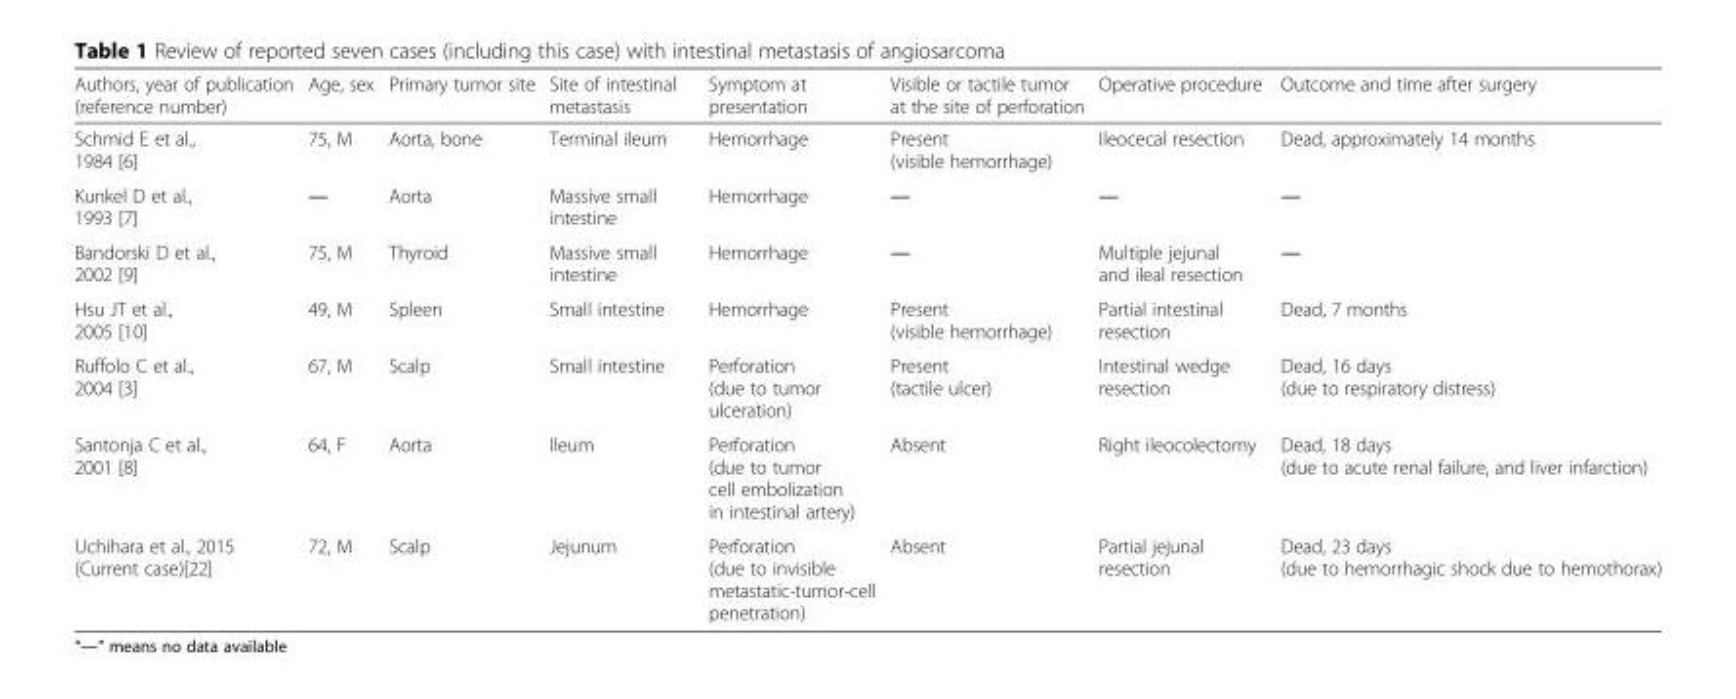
<table><thead><tr><td>Authors, year of publication (reference number)</td><td>Age, sex</td><td>Primary tumor site</td><td>Site of intestinal metastasis</td><td>Symptom at presentation</td><td>Visible or tactile tumor at the site of perforation</td><td>Operative procedure</td><td>Outcome and time after surgery</td></tr></thead><tbody><tr><td>Schmid E et al., 1984 [6]</td><td>75, M</td><td>Aorta, bone</td><td>Terminal ileum</td><td>Hemorrhage</td><td>Present (visible hemorrhage)</td><td>Ileocecal resection</td><td>Dead, approximately 14 months</td></tr><tr><td>Kunkel D et al., 1993 [7]</td><td>―</td><td>Aorta</td><td>Massive small intestine</td><td>Hemorrhage</td><td>―</td><td>―</td><td>―</td></tr><tr><td>Bandorski D et al., 2002 [9]</td><td>75, M</td><td>Thyroid</td><td>Massive small intestine</td><td>Hemorrhage</td><td>―</td><td>Multiple jejunal and ileal resection</td><td>―</td></tr><tr><td>Hsu JT et al., 2005 [10]</td><td>49, M</td><td>Spleen</td><td>Small intestine</td><td>Hemorrhage</td><td>Present (visible hemorrhage)</td><td>Partial intestinal resection</td><td>Dead, 7 months</td></tr><tr><td>Ruffolo C et al., 2004 [3]</td><td>67, M</td><td>Scalp</td><td>Small intestine</td><td>Perforation (due to tumor ulceration)</td><td>Present (tactile ulcer)</td><td>Intestinal wedge resection</td><td>Dead, 16 days (due to respiratory distress)</td></tr><tr><td>Santonja C et al., 2001 [8]</td><td>64, F</td><td>Aorta</td><td>Ileum</td><td>Perforation (due to tumor cell embolization in intestinal artery)</td><td>Absent</td><td>Right ileocolectomy</td><td>Dead, 18 days (due to acute renal failure, and liver infarction)</td></tr><tr><td>Uchihara et al., 2015 (Current case)[22]</td><td>72, M</td><td>Scalp</td><td>Jejunum</td><td>Perforation (due to invisible metastatic-tumor-cell penetration)</td><td>Absent</td><td>Partial jejunal resection</td><td>Dead, 23 days (due to hemorrhagic shock due to hemothorax)</td></tr></tbody></table>